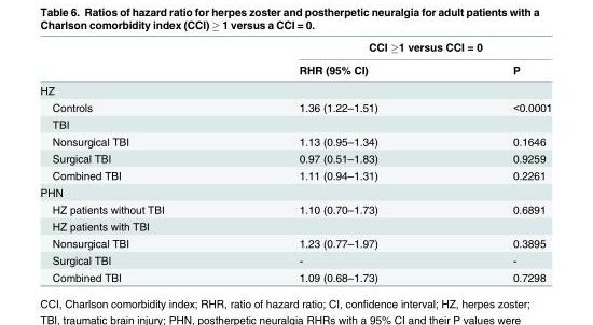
<table><thead><tr><td rowspan="2"></td><td colspan="2">CCI ≥1 versus CCI = 0</td></tr><tr><td>RHR (95% CI)</td><td>P</td></tr></thead><tbody><tr><td colspan="3">HZ</td></tr><tr><td>Controls</td><td>1.36 (1.22–1.51)</td><td>&lt;0.0001</td></tr><tr><td colspan="3">TBI</td></tr><tr><td>Nonsurgical TBI</td><td>1.13 (0.95–1.34)</td><td>0.1646</td></tr><tr><td>Surgical TBI</td><td>0.97 (0.51–1.83)</td><td>0.9259</td></tr><tr><td>Combined TBI</td><td>1.11 (0.94–1.31)</td><td>0.2261</td></tr><tr><td colspan="3">PHN</td></tr><tr><td>HZ patients without TBI</td><td>1.10 (0.70–1.73)</td><td>0.6891</td></tr><tr><td colspan="3">HZ patients with TBI</td></tr><tr><td>Nonsurgical TBI</td><td>1.23 (0.77–1.97)</td><td>0.3895</td></tr><tr><td>Surgical TBI</td><td>-</td><td>-</td></tr><tr><td>Combined TBI</td><td>1.09 (0.68–1.73)</td><td>0.7298</td></tr></tbody></table>